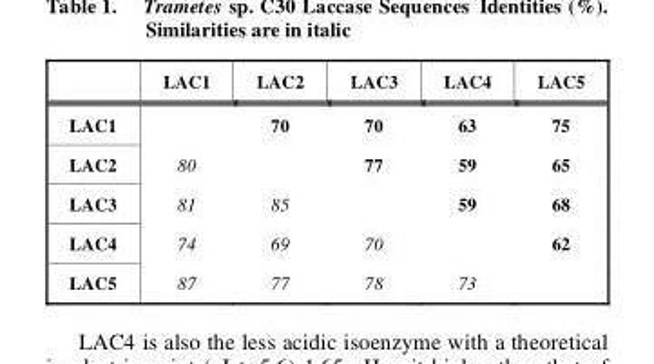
<table><thead><tr><td></td><td>LAC1</td><td>LAC2</td><td>LAC3</td><td>LAC4</td><td>LAC5</td></tr></thead><tbody><tr><td>LAC1</td><td></td><td>70</td><td>70</td><td>63</td><td>75</td></tr><tr><td>LAC2</td><td>80</td><td></td><td>77</td><td>59</td><td>65</td></tr><tr><td>LAC3</td><td>81</td><td>85</td><td></td><td>59</td><td>68</td></tr><tr><td>LAC4</td><td>74</td><td>69</td><td>70</td><td></td><td>62</td></tr><tr><td>LAC5</td><td>87</td><td>77</td><td>78</td><td>73</td><td></td></tr></tbody></table>